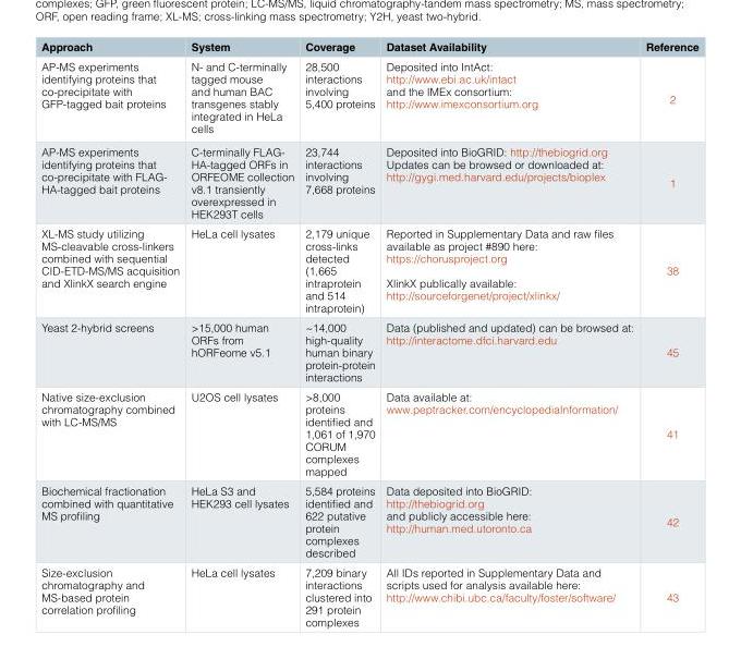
<table><thead><tr><td>Approach</td><td>System</td><td>Coverage</td><td>Dataset Availability</td><td>Reference</td></tr></thead><tbody><tr><td>AP-MS experiments identifying proteins that co-precipitate with GFP-tagged bait proteins</td><td>N- and C-terminally tagged mouse and human BAC transgenes stably integrated in HeLa cells</td><td>28,500 interactions involving 5,400 proteins</td><td>Deposited into IntAct: http://www.ebi.ac.uk/intact and the IMEx consortium: http://www.imexconsortium.org</td><td>2</td></tr><tr><td>AP-MS experiments identifying proteins that co-precipitate with FLAG- HA-tagged bait proteins</td><td>C-terminally FLAG- HA-tagged ORFs in ORFEOME collection v8.1 transiently overexpressed in HEK293T cells</td><td>23,744 interactions involving 7,668 proteins</td><td>Deposited into BioGRID: http://thebiogrid.org Updates can be browsed or downloaded at: http://gygi.med.harvard.edu/projects/bioplex</td><td>1</td></tr><tr><td>XL-MS study utilizing MS-cleavable cross-linkers combined with sequential CID-ETD-MS/MS acquisition and XlinkX search engine</td><td>HeLa cell lysates</td><td>2,179 unique cross-links detected (1,665 intraprotein and 514 intraprotein)</td><td>Reported in Supplementary Data and raw files available as project #890 here: https://chorusproject.org XlinkX publically available: http://sourceforgenet/project/xlinkx/</td><td>38</td></tr><tr><td>Yeast 2-hybrid screens</td><td>&gt;15,000 human ORFs from hORFeome v5.1</td><td>~14,000 high-quality human binary protein-protein interactions</td><td>Data (published and updated) can be browsed at: http://interactome.dfci.harvard.edu</td><td>45</td></tr><tr><td>Native size-exclusion chromatography combined with LC-MS/MS</td><td>U2OS cell lysates</td><td>&gt;8,000 proteins identified and 1,061 of 1,970 CORUM complexes mapped</td><td>Data available at: www.peptracker.com/encyclopediaInformation/</td><td>41</td></tr><tr><td>Biochemical fractionation combined with quantitative MS profiling</td><td>HeLa S3 and HEK293 cell lysates</td><td>5,584 proteins identified and 622 putative protein complexes described</td><td>Data deposited into BioGRID: http://thebiogrid.org and publicly accessible here: http://human.med.utoronto.ca</td><td>42</td></tr><tr><td>Size-exclusion chromatography and MS-based protein correlation profiling</td><td>HeLa cell lysates</td><td>7,209 binary interactions clustered into 291 protein complexes</td><td>All IDs reported in Supplementary Data and scripts used for analysis available here: http://www.chibi.ubc.ca/faculty/foster/software/</td><td>43</td></tr></tbody></table>